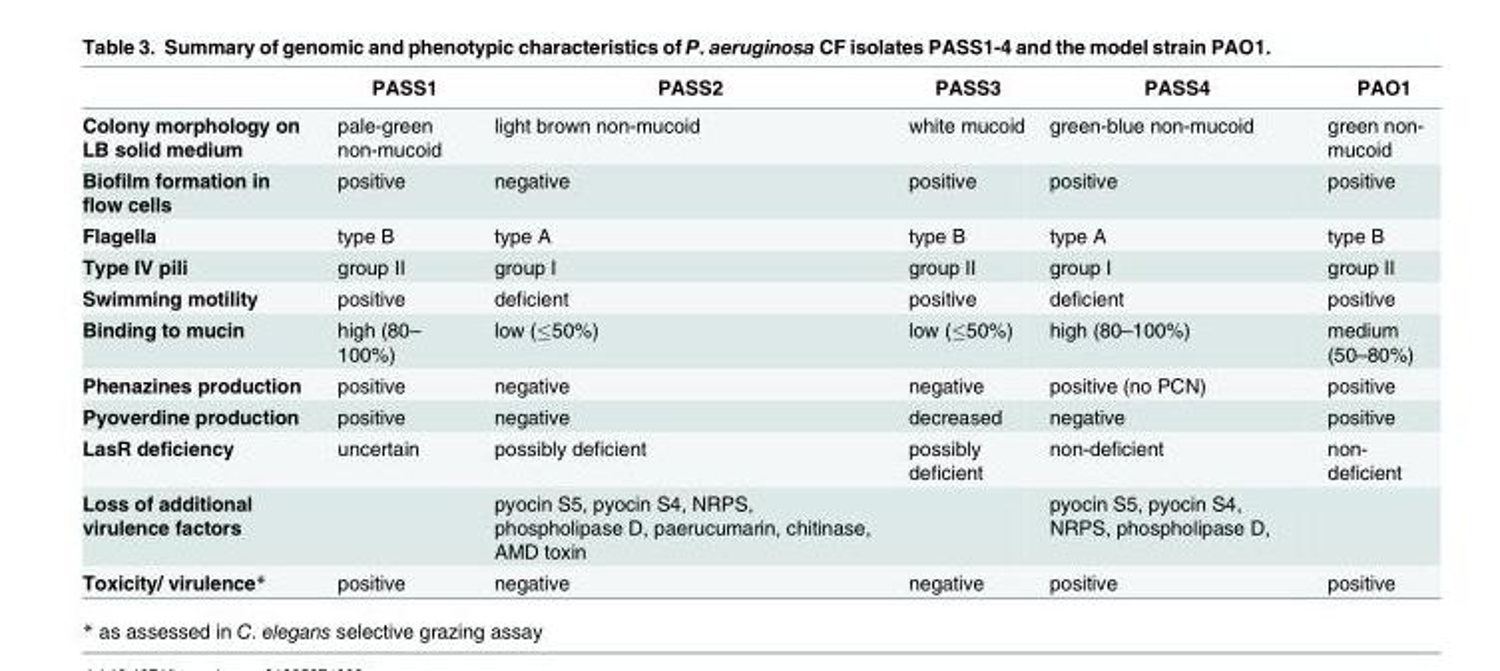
<table><thead><tr><td></td><td>PASS1</td><td>PASS2</td><td>PASS3</td><td>PASS4</td><td>PAO1</td></tr></thead><tbody><tr><td>Colony morphology on LB solid medium</td><td>pale-green non-mucoid</td><td>light brown non-mucoid</td><td>white mucoid</td><td>green-blue non-mucoid</td><td>green non- mucoid</td></tr><tr><td>Biofilm formation in flow cells</td><td>positive</td><td>negative</td><td>positive</td><td>positive</td><td>positive</td></tr><tr><td>Flagella</td><td>type B</td><td>type A</td><td>type B</td><td>type A</td><td>type B</td></tr><tr><td>Type IV pili</td><td>group II</td><td>group I</td><td>group II</td><td>group I</td><td>group II</td></tr><tr><td>Swimming motility</td><td>positive</td><td>deficient</td><td>positive</td><td>deficient</td><td>positive</td></tr><tr><td>Binding to mucin</td><td>high (80– 100%)</td><td>low (≤50%)</td><td>low (≤50%)</td><td>high (80–100%)</td><td>medium (50–80%)</td></tr><tr><td>Phenazines production</td><td>positive</td><td>negative</td><td>negative</td><td>positive (no PCN)</td><td>positive</td></tr><tr><td>Pyoverdine production</td><td>positive</td><td>negative</td><td>decreased</td><td>negative</td><td>positive</td></tr><tr><td>LasR deficiency</td><td>uncertain</td><td>possibly deficient</td><td>possibly deficient</td><td>non-deficient</td><td>non- deficient</td></tr><tr><td>Loss of additional virulence factors</td><td></td><td>pyocin S5, pyocin S4, NRPS, phospholipase D, paerucumarin, chitinase, AMD toxin</td><td></td><td>pyocin S5, pyocin S4, NRPS, phospholipase D,</td><td></td></tr><tr><td>Toxicity/ virulence*</td><td>positive</td><td>negative</td><td>negative</td><td>positive</td><td>positive</td></tr></tbody></table>